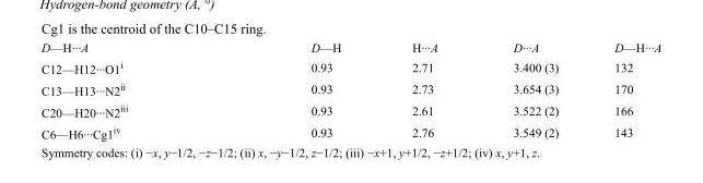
<table><tbody><tr><td>D—H···A</td><td>D—H</td><td>H···A</td><td>D···A</td><td>D—H···A</td></tr><tr><td>C12—H12···O1<sup>i</sup></td><td>0.93</td><td>2.71</td><td>3.400 (3)</td><td>132</td></tr><tr><td>C13—H13···N2<sup>ii</sup></td><td>0.93</td><td>2.73</td><td>3.654 (3)</td><td>170</td></tr><tr><td>C20—H20···N2<sup>iii</sup></td><td>0.93</td><td>2.61</td><td>3.522 (2)</td><td>166</td></tr><tr><td>C6—H6···Cg1<sup>iv</sup></td><td>0.93</td><td>2.76</td><td>3.549 (2)</td><td>143</td></tr></tbody></table>